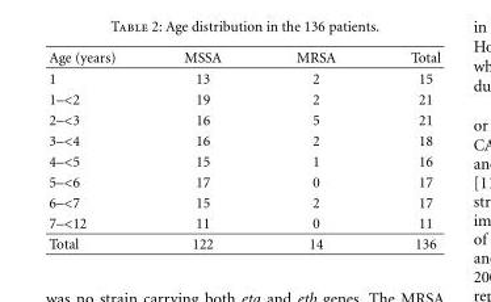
<table><thead><tr><td>Age (years)</td><td>MSSA</td><td>MRSA</td><td>Total</td></tr></thead><tbody><tr><td>1</td><td>13</td><td>2</td><td>15</td></tr><tr><td>1–&lt;2</td><td>19</td><td>2</td><td>21</td></tr><tr><td>2–&lt;3</td><td>16</td><td>5</td><td>21</td></tr><tr><td>3–&lt;4</td><td>16</td><td>2</td><td>18</td></tr><tr><td>4–&lt;5</td><td>15</td><td>1</td><td>16</td></tr><tr><td>5–&lt;6</td><td>17</td><td>0</td><td>17</td></tr><tr><td>6–&lt;7</td><td>15</td><td>2</td><td>17</td></tr><tr><td>7–&lt;12</td><td>11</td><td>0</td><td>11</td></tr><tr><td>Total</td><td>122</td><td>14</td><td>136</td></tr></tbody></table>